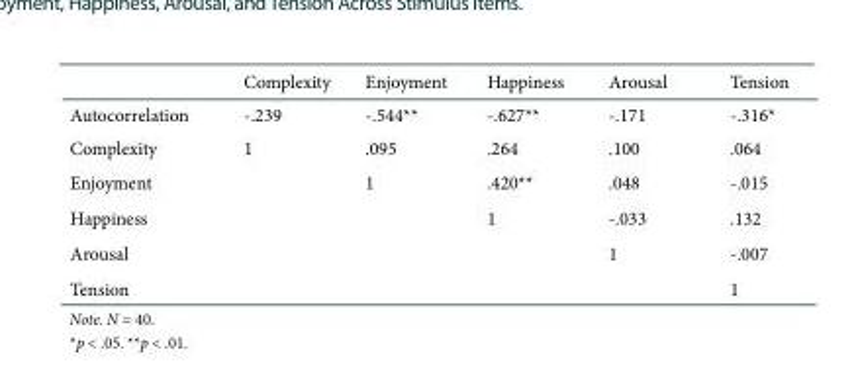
<table><thead><tr><td></td><td>Complexity</td><td>Enjoyment</td><td>Happiness</td><td>Arousal</td><td>Tension</td></tr></thead><tbody><tr><td>Autocorrelation</td><td>-.239</td><td>-.544**</td><td>-.627**</td><td>-.171</td><td>-.316*</td></tr><tr><td>Complexity</td><td>1</td><td>.095</td><td>.264</td><td>.100</td><td>.064</td></tr><tr><td>Enjoyment</td><td></td><td>1</td><td>.420**</td><td>.048</td><td>-.015</td></tr><tr><td>Happiness</td><td></td><td></td><td>1</td><td>-.033</td><td>.132</td></tr><tr><td>Arousal</td><td></td><td></td><td></td><td>1</td><td>-.007</td></tr><tr><td>Tension</td><td></td><td></td><td></td><td></td><td>1</td></tr></tbody></table>